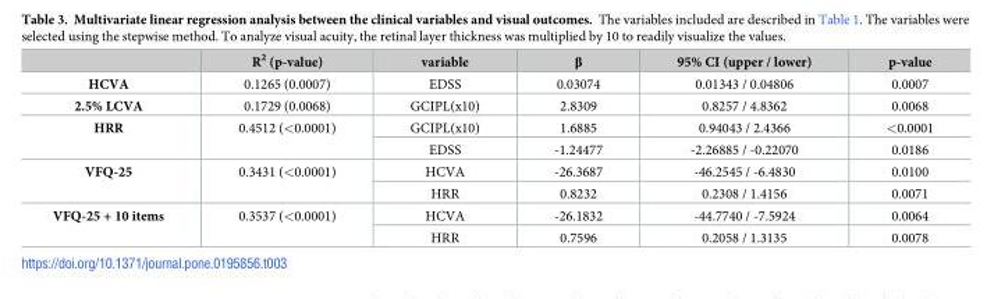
<table><thead><tr><td></td><td>R<sup>2</sup> (p-value)</td><td>variable</td><td>β</td><td>95% CI (upper / lower)</td><td>p-value</td></tr></thead><tbody><tr><td>HCVA</td><td>0.1265 (0.0007)</td><td>EDSS</td><td>0.03074</td><td>0.01343 / 0.04806</td><td>0.0007</td></tr><tr><td>2.5% LCVA</td><td>0.1729 (0.0068)</td><td>GCIPL(x10)</td><td>2.8309</td><td>0.8257 / 4.8362</td><td>0.0068</td></tr><tr><td rowspan="2">HRR</td><td rowspan="2">0.4512 (&lt;0.0001)</td><td>GCIPL(x10)</td><td>1.6885</td><td>0.94043 / 2.4366</td><td>&lt;0.0001</td></tr><tr><td>EDSS</td><td>-1.24477</td><td>-2.26885 / -0.22070</td><td>0.0186</td></tr><tr><td rowspan="2">VFQ-25</td><td rowspan="2">0.3431 (&lt;0.0001)</td><td>HCVA</td><td>-26.3687</td><td>-46.2545 / -6.4830</td><td>0.0100</td></tr><tr><td>HRR</td><td>0.8232</td><td>0.2308 / 1.4156</td><td>0.0071</td></tr><tr><td rowspan="2">VFQ-25 + 10 items</td><td rowspan="2">0.3537 (&lt;0.0001)</td><td>HCVA</td><td>-26.1832</td><td>-44.7740 / -7.5924</td><td>0.0064</td></tr><tr><td>HRR</td><td>0.7596</td><td>0.2058 / 1.3135</td><td>0.0078</td></tr></tbody></table>